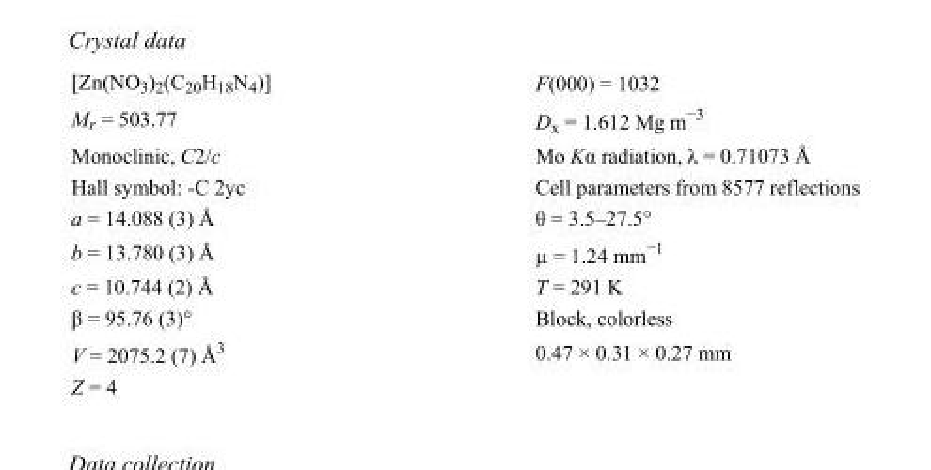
<table><tbody><tr><td>[Zn(NO<sub>3</sub>)<sub>2</sub>(C<sub>20</sub>H<sub>18</sub>N<sub>4</sub>)]</td><td>F(000) = 1032</td></tr><tr><td>M<sub>r</sub> = 503.77</td><td>D<sub>x</sub> = 1.612 Mg m<sup>−3</sup></td></tr><tr><td>Monoclinic, C2/c</td><td>Mo Kα radiation, λ = 0.71073 Å</td></tr><tr><td>Hall symbol: -C 2yc</td><td>Cell parameters from 8577 reflections</td></tr><tr><td>a = 14.088 (3) Å</td><td>θ = 3.5–27.5°</td></tr><tr><td>b = 13.780 (3) Å</td><td>µ = 1.24 mm<sup>−1</sup></td></tr><tr><td>c = 10.744 (2) Å</td><td>T = 291 K</td></tr><tr><td>β = 95.76 (3)°</td><td>Block, colorless</td></tr><tr><td>V = 2075.2 (7) Å<sup>3</sup></td><td>0.47 × 0.31 × 0.27 mm</td></tr><tr><td>Z = 4</td><td></td></tr></tbody></table>